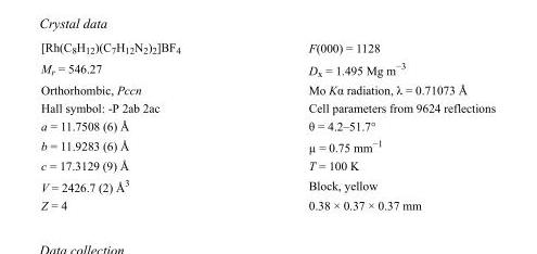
<table><tbody><tr><td>[Rh(C<sub>8</sub>H<sub>12</sub>)(C<sub>7</sub>H<sub>12</sub>N<sub>2</sub>)<sub>2</sub>]BF<sub>4</sub></td><td>F(000) = 1128</td></tr><tr><td>M<sub>r</sub> = 546.27</td><td>D<sub>x</sub> = 1.495 Mg m<sup>−3</sup></td></tr><tr><td>Orthorhombic, Pccn</td><td>Mo Kα radiation, λ = 0.71073 Å</td></tr><tr><td>Hall symbol: -P 2ab 2ac</td><td>Cell parameters from 9624 reflections</td></tr><tr><td>a = 11.7508 (6) Å</td><td>θ = 4.2–51.7°</td></tr><tr><td>b = 11.9283 (6) Å</td><td>µ = 0.75 mm<sup>−1</sup></td></tr><tr><td>c = 17.3129 (9) Å</td><td>T = 100 K</td></tr><tr><td>V = 2426.7 (2) Å<sup>3</sup></td><td>Block, yellow</td></tr><tr><td>Z = 4</td><td>0.38 × 0.37 × 0.37 mm</td></tr></tbody></table>